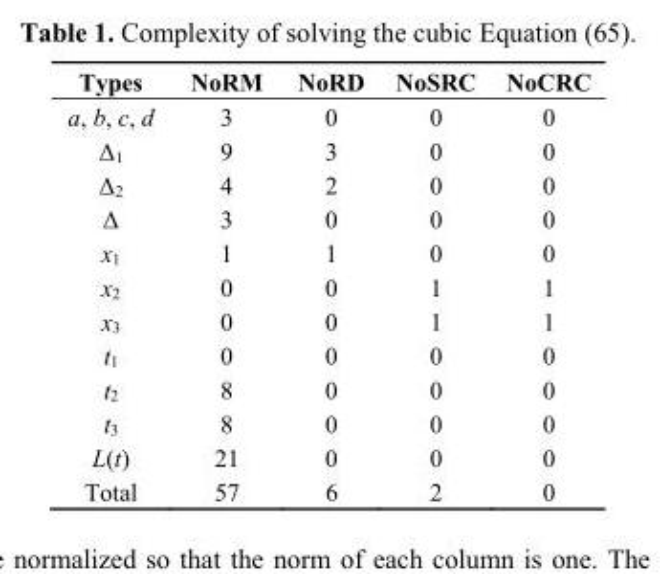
<table><thead><tr><td>Types</td><td>NoRM</td><td>NoRD</td><td>NoSRC</td><td>NoCRC</td></tr></thead><tbody><tr><td>a, b, c, d</td><td>3</td><td>0</td><td>0</td><td>0</td></tr><tr><td>Δ<sub>1</sub></td><td>9</td><td>3</td><td>0</td><td>0</td></tr><tr><td>Δ<sub>2</sub></td><td>4</td><td>2</td><td>0</td><td>0</td></tr><tr><td>Δ</td><td>3</td><td>0</td><td>0</td><td>0</td></tr><tr><td>x<sub>1</sub></td><td>1</td><td>1</td><td>0</td><td>0</td></tr><tr><td>x<sub>2</sub></td><td>0</td><td>0</td><td>1</td><td>1</td></tr><tr><td>x<sub>3</sub></td><td>0</td><td>0</td><td>1</td><td>1</td></tr><tr><td>t<sub>1</sub></td><td>0</td><td>0</td><td>0</td><td>0</td></tr><tr><td>t<sub>2</sub></td><td>8</td><td>0</td><td>0</td><td>0</td></tr><tr><td>t<sub>3</sub></td><td>8</td><td>0</td><td>0</td><td>0</td></tr><tr><td>L(t)</td><td>21</td><td>0</td><td>0</td><td>0</td></tr><tr><td>Total</td><td>57</td><td>6</td><td>2</td><td>0</td></tr></tbody></table>